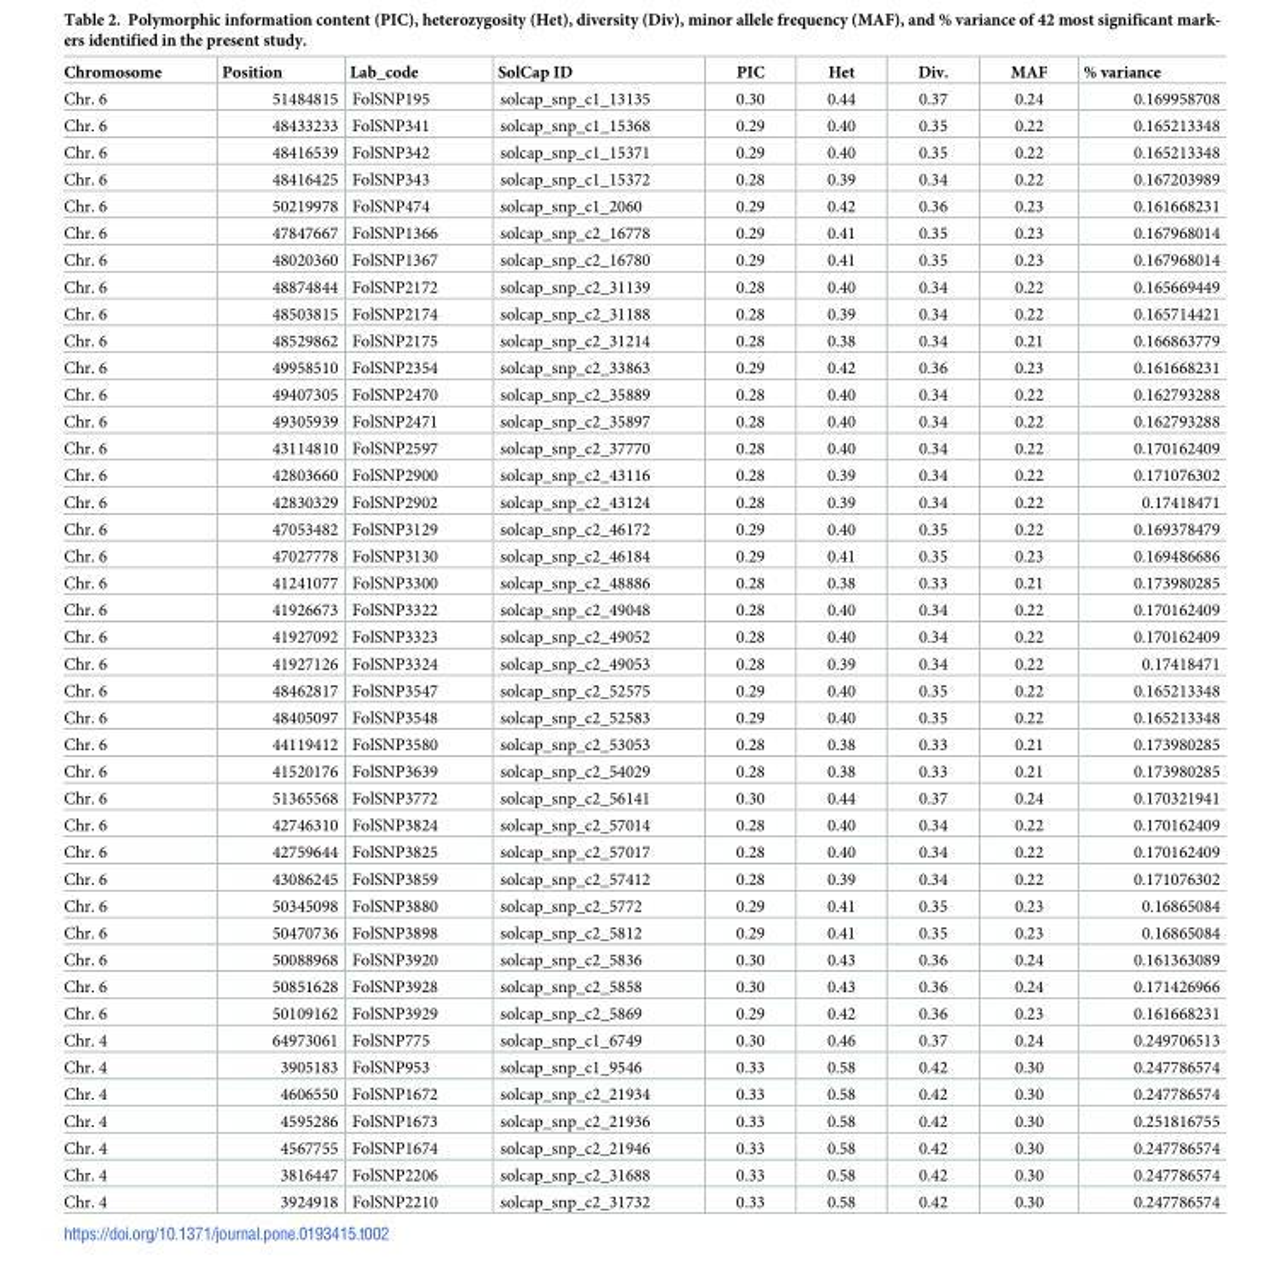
<table><thead><tr><td>Chromosome</td><td>Position</td><td>Lab_code</td><td>SolCap ID</td><td>PIC</td><td>Het</td><td>Div.</td><td>MAF</td><td>% variance</td></tr></thead><tbody><tr><td>Chr. 6</td><td>51484815</td><td>FolSNP195</td><td>solcap_snp_c1_13135</td><td>0.30</td><td>0.44</td><td>0.37</td><td>0.24</td><td>0.169958708</td></tr><tr><td>Chr. 6</td><td>48433233</td><td>FolSNP341</td><td>solcap_snp_c1_15368</td><td>0.29</td><td>0.40</td><td>0.35</td><td>0.22</td><td>0.165213348</td></tr><tr><td>Chr. 6</td><td>48416539</td><td>FolSNP342</td><td>solcap_snp_c1_15371</td><td>0.29</td><td>0.40</td><td>0.35</td><td>0.22</td><td>0.165213348</td></tr><tr><td>Chr. 6</td><td>48416425</td><td>FolSNP343</td><td>solcap_snp_c1_15372</td><td>0.28</td><td>0.39</td><td>0.34</td><td>0.22</td><td>0.167203989</td></tr><tr><td>Chr. 6</td><td>50219978</td><td>FolSNP474</td><td>solcap_snp_c1_2060</td><td>0.29</td><td>0.42</td><td>0.36</td><td>0.23</td><td>0.161668231</td></tr><tr><td>Chr. 6</td><td>47847667</td><td>FolSNP1366</td><td>solcap_snp_c2_16778</td><td>0.29</td><td>0.41</td><td>0.35</td><td>0.23</td><td>0.167968014</td></tr><tr><td>Chr. 6</td><td>48020360</td><td>FolSNP1367</td><td>solcap_snp_c2_16780</td><td>0.29</td><td>0.41</td><td>0.35</td><td>0.23</td><td>0.167968014</td></tr><tr><td>Chr. 6</td><td>48874844</td><td>FolSNP2172</td><td>solcap_snp_c2_31139</td><td>0.28</td><td>0.40</td><td>0.34</td><td>0.22</td><td>0.165669449</td></tr><tr><td>Chr. 6</td><td>48503815</td><td>FolSNP2174</td><td>solcap_snp_c2_31188</td><td>0.28</td><td>0.39</td><td>0.34</td><td>0.22</td><td>0.165714421</td></tr><tr><td>Chr. 6</td><td>48529862</td><td>FolSNP2175</td><td>solcap_snp_c2_31214</td><td>0.28</td><td>0.38</td><td>0.34</td><td>0.21</td><td>0.166863779</td></tr><tr><td>Chr. 6</td><td>49958510</td><td>FolSNP2354</td><td>solcap_snp_c2_33863</td><td>0.29</td><td>0.42</td><td>0.36</td><td>0.23</td><td>0.161668231</td></tr><tr><td>Chr. 6</td><td>49407305</td><td>FolSNP2470</td><td>solcap_snp_c2_35889</td><td>0.28</td><td>0.40</td><td>0.34</td><td>0.22</td><td>0.162793288</td></tr><tr><td>Chr. 6</td><td>49305939</td><td>FolSNP2471</td><td>solcap_snp_c2_35897</td><td>0.28</td><td>0.40</td><td>0.34</td><td>0.22</td><td>0.162793288</td></tr><tr><td>Chr. 6</td><td>43114810</td><td>FolSNP2597</td><td>solcap_snp_c2_37770</td><td>0.28</td><td>0.40</td><td>0.34</td><td>0.22</td><td>0.170162409</td></tr><tr><td>Chr. 6</td><td>42803660</td><td>FolSNP2900</td><td>solcap_snp_c2_43116</td><td>0.28</td><td>0.39</td><td>0.34</td><td>0.22</td><td>0.171076302</td></tr><tr><td>Chr. 6</td><td>42830329</td><td>FolSNP2902</td><td>solcap_snp_c2_43124</td><td>0.28</td><td>0.39</td><td>0.34</td><td>0.22</td><td>0.17418471</td></tr><tr><td>Chr. 6</td><td>47053482</td><td>FolSNP3129</td><td>solcap_snp_c2_46172</td><td>0.29</td><td>0.40</td><td>0.35</td><td>0.22</td><td>0.169378479</td></tr><tr><td>Chr. 6</td><td>47027778</td><td>FolSNP3130</td><td>solcap_snp_c2_46184</td><td>0.29</td><td>0.41</td><td>0.35</td><td>0.23</td><td>0.169486686</td></tr><tr><td>Chr. 6</td><td>41241077</td><td>FolSNP3300</td><td>solcap_snp_c2_48886</td><td>0.28</td><td>0.38</td><td>0.33</td><td>0.21</td><td>0.173980285</td></tr><tr><td>Chr. 6</td><td>41926673</td><td>FolSNP3322</td><td>solcap_snp_c2_49048</td><td>0.28</td><td>0.40</td><td>0.34</td><td>0.22</td><td>0.170162409</td></tr><tr><td>Chr. 6</td><td>41927092</td><td>FolSNP3323</td><td>solcap_snp_c2_49052</td><td>0.28</td><td>0.40</td><td>0.34</td><td>0.22</td><td>0.170162409</td></tr><tr><td>Chr. 6</td><td>41927126</td><td>FolSNP3324</td><td>solcap_snp_c2_49053</td><td>0.28</td><td>0.39</td><td>0.34</td><td>0.22</td><td>0.17418471</td></tr><tr><td>Chr. 6</td><td>48462817</td><td>FolSNP3547</td><td>solcap_snp_c2_52575</td><td>0.29</td><td>0.40</td><td>0.35</td><td>0.22</td><td>0.165213348</td></tr><tr><td>Chr. 6</td><td>48405097</td><td>FolSNP3548</td><td>solcap_snp_c2_52583</td><td>0.29</td><td>0.40</td><td>0.35</td><td>0.22</td><td>0.165213348</td></tr><tr><td>Chr. 6</td><td>44119412</td><td>FolSNP3580</td><td>solcap_snp_c2_53053</td><td>0.28</td><td>0.38</td><td>0.33</td><td>0.21</td><td>0.173980285</td></tr><tr><td>Chr. 6</td><td>41520176</td><td>FolSNP3639</td><td>solcap_snp_c2_54029</td><td>0.28</td><td>0.38</td><td>0.33</td><td>0.21</td><td>0.173980285</td></tr><tr><td>Chr. 6</td><td>51365568</td><td>FolSNP3772</td><td>solcap_snp_c2_56141</td><td>0.30</td><td>0.44</td><td>0.37</td><td>0.24</td><td>0.170321941</td></tr><tr><td>Chr. 6</td><td>42746310</td><td>FolSNP3824</td><td>solcap_snp_c2_57014</td><td>0.28</td><td>0.40</td><td>0.34</td><td>0.22</td><td>0.170162409</td></tr><tr><td>Chr. 6</td><td>42759644</td><td>FolSNP3825</td><td>solcap_snp_c2_57017</td><td>0.28</td><td>0.40</td><td>0.34</td><td>0.22</td><td>0.170162409</td></tr><tr><td>Chr. 6</td><td>43086245</td><td>FolSNP3859</td><td>solcap_snp_c2_57412</td><td>0.28</td><td>0.39</td><td>0.34</td><td>0.22</td><td>0.171076302</td></tr><tr><td>Chr. 6</td><td>50345098</td><td>FolSNP3880</td><td>solcap_snp_c2_5772</td><td>0.29</td><td>0.41</td><td>0.35</td><td>0.23</td><td>0.16865084</td></tr><tr><td>Chr. 6</td><td>50470736</td><td>FolSNP3898</td><td>solcap_snp_c2_5812</td><td>0.29</td><td>0.41</td><td>0.35</td><td>0.23</td><td>0.16865084</td></tr><tr><td>Chr. 6</td><td>50088968</td><td>FolSNP3920</td><td>solcap_snp_c2_5836</td><td>0.30</td><td>0.43</td><td>0.36</td><td>0.24</td><td>0.161363089</td></tr><tr><td>Chr. 6</td><td>50851628</td><td>FolSNP3928</td><td>solcap_snp_c2_5858</td><td>0.30</td><td>0.43</td><td>0.36</td><td>0.24</td><td>0.171426966</td></tr><tr><td>Chr. 6</td><td>50109162</td><td>FolSNP3929</td><td>solcap_snp_c2_5869</td><td>0.29</td><td>0.42</td><td>0.36</td><td>0.23</td><td>0.161668231</td></tr><tr><td>Chr. 4</td><td>64973061</td><td>FolSNP775</td><td>solcap_snp_c1_6749</td><td>0.30</td><td>0.46</td><td>0.37</td><td>0.24</td><td>0.249706513</td></tr><tr><td>Chr. 4</td><td>3905183</td><td>FolSNP953</td><td>solcap_snp_c1_9546</td><td>0.33</td><td>0.58</td><td>0.42</td><td>0.30</td><td>0.247786574</td></tr><tr><td>Chr. 4</td><td>4606550</td><td>FolSNP1672</td><td>solcap_snp_c2_21934</td><td>0.33</td><td>0.58</td><td>0.42</td><td>0.30</td><td>0.247786574</td></tr><tr><td>Chr. 4</td><td>4595286</td><td>FolSNP1673</td><td>solcap_snp_c2_21936</td><td>0.33</td><td>0.58</td><td>0.42</td><td>0.30</td><td>0.251816755</td></tr><tr><td>Chr. 4</td><td>4567755</td><td>FolSNP1674</td><td>solcap_snp_c2_21946</td><td>0.33</td><td>0.58</td><td>0.42</td><td>0.30</td><td>0.247786574</td></tr><tr><td>Chr. 4</td><td>3816447</td><td>FolSNP2206</td><td>solcap_snp_c2_31688</td><td>0.33</td><td>0.58</td><td>0.42</td><td>0.30</td><td>0.247786574</td></tr><tr><td>Chr. 4</td><td>3924918</td><td>FolSNP2210</td><td>solcap_snp_c2_31732</td><td>0.33</td><td>0.58</td><td>0.42</td><td>0.30</td><td>0.247786574</td></tr></tbody></table>